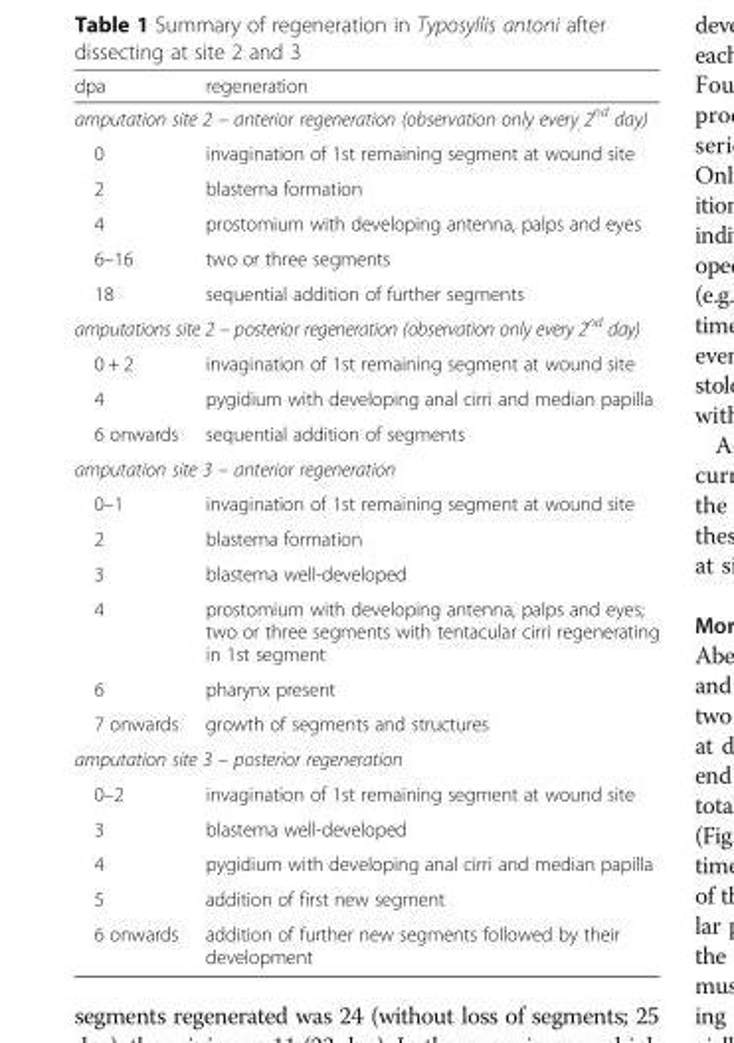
<table><thead><tr><td>dpa</td><td>regeneration</td></tr></thead><tbody><tr><td colspan="2">amputation site 2 – anterior regeneration (observation only every 2<sup>nd</sup> day)</td></tr><tr><td>0</td><td>invagination of 1st remaining segment at wound site</td></tr><tr><td>2</td><td>blastema formation</td></tr><tr><td>4</td><td>prostomium with developing antenna, palps and eyes</td></tr><tr><td>6–16</td><td>two or three segments</td></tr><tr><td>18</td><td>sequential addition of further segments</td></tr><tr><td colspan="2">amputations site 2 – posterior regeneration (observation only every 2<sup>nd</sup> day)</td></tr><tr><td>0 + 2</td><td>invagination of 1st remaining segment at wound site</td></tr><tr><td>4</td><td>pygidium with developing anal cirri and median papilla</td></tr><tr><td>6 onwards</td><td>sequential addition of segments</td></tr><tr><td colspan="2">amputation site 3 – anterior regeneration</td></tr><tr><td>0–1</td><td>invagination of 1st remaining segment at wound site</td></tr><tr><td>2</td><td>blastema formation</td></tr><tr><td>3</td><td>blastema well-developed</td></tr><tr><td>4</td><td>prostomium with developing antenna, palps and eyes; two or three segments with tentacular cirri regenerating in 1st segment</td></tr><tr><td>6</td><td>pharynx present</td></tr><tr><td>7 onwards</td><td>growth of segments and structures</td></tr><tr><td colspan="2">amputation site 3 – posterior regeneration</td></tr><tr><td>0–2</td><td>invagination of 1st remaining segment at wound site</td></tr><tr><td>3</td><td>blastema well-developed</td></tr><tr><td>4</td><td>pygidium with developing anal cirri and median papilla</td></tr><tr><td>5</td><td>addition of first new segment</td></tr><tr><td>6 onwards</td><td>addition of further new segments followed by their development</td></tr></tbody></table>